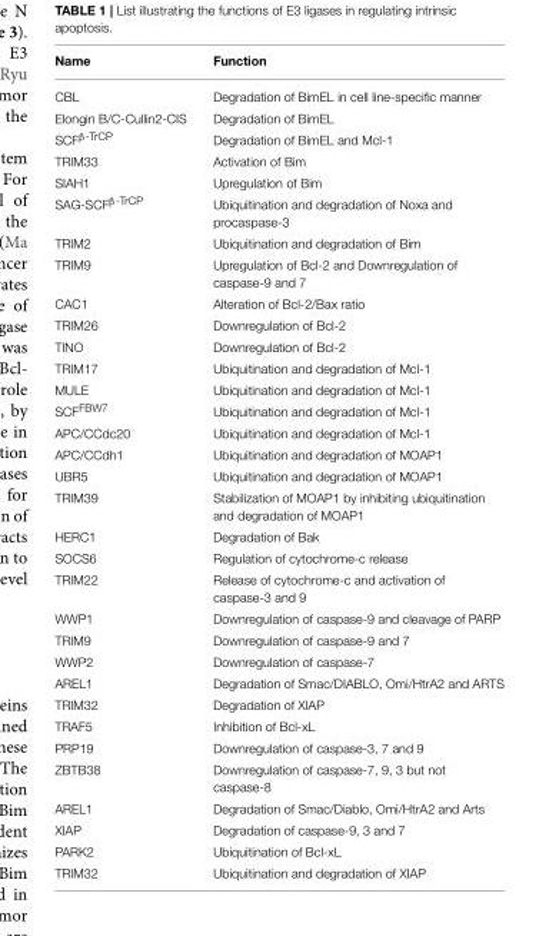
<table><thead><tr><td>Name</td><td>Function</td></tr></thead><tbody><tr><td>CBL</td><td>Degradation of BimEL in cell line-specific manner</td></tr><tr><td>Elongin B/C-Cullin2-CIS</td><td>Degradation of BimEL</td></tr><tr><td>SCF<sup>β-TrCP</sup></td><td>Degradation of BimEL and Mcl-1</td></tr><tr><td>TRIM33</td><td>Activation of Bim</td></tr><tr><td>SIAH1</td><td>Upregulation of Bim</td></tr><tr><td>SAG-SCF<sup>β-TrCP</sup></td><td>Ubiquitination and degradation of Noxa and procaspase-3</td></tr><tr><td>TRIM2</td><td>Ubiquitination and degradation of Bim</td></tr><tr><td>TRIM9</td><td>Upregulation of Bcl-2 and Downregulation of caspase-9 and 7</td></tr><tr><td>CAC1</td><td>Alteration of Bcl-2/Bax ratio</td></tr><tr><td>TRIM26</td><td>Downregulation of Bcl-2</td></tr><tr><td>TINO</td><td>Downregulation of Bcl-2</td></tr><tr><td>TRIM17</td><td>Ubiquitination and degradation of Mcl-1</td></tr><tr><td>MULE</td><td>Ubiquitination and degradation of Mcl-1</td></tr><tr><td>SCF<sup>FBW7</sup></td><td>Ubiquitination and degradation of Mcl-1</td></tr><tr><td>APC/CCdc20</td><td>Ubiquitination and degradation of Mcl-1</td></tr><tr><td>APC/CCdh1</td><td>Ubiquitination and degradation of MOAP1</td></tr><tr><td>UBR5</td><td>Ubiquitination and degradation of MOAP1</td></tr><tr><td>TRIM39</td><td>Stabilization of MOAP1 by inhibiting ubiquitination and degradation of MOAP1</td></tr><tr><td>HERC1</td><td>Degradation of Bak</td></tr><tr><td>SOCS6</td><td>Regulation of cytochrome-c release</td></tr><tr><td>TRIM22</td><td>Release of cytochrome-c and activation of caspase-3 and 9</td></tr><tr><td>WWP1</td><td>Downregulation of caspase-9 and cleavage of PARP</td></tr><tr><td>TRIM9</td><td>Downregulation of caspase-9 and 7</td></tr><tr><td>WWP2</td><td>Downregulation of caspase-7</td></tr><tr><td>AREL1</td><td>Degradation of Smac/DIABLO, Omi/HtrA2 and ARTS</td></tr><tr><td>TRIM32</td><td>Degradation of XIAP</td></tr><tr><td>TRAF5</td><td>Inhibition of Bcl-xL</td></tr><tr><td>PRP19</td><td>Downregulation of caspase-3, 7 and 9</td></tr><tr><td>ZBTB38</td><td>Downregulation of caspase-7, 9, 3 but not caspase-8</td></tr><tr><td>AREL1</td><td>Degradation of Smac/Diablo, Omi/HtrA2 and Arts</td></tr><tr><td>XIAP</td><td>Degradation of caspase-9, 3 and 7</td></tr><tr><td>PARK2</td><td>Ubiquitination of Bcl-xL</td></tr><tr><td>TRIM32</td><td>Ubiquitination and degradation of XIAP</td></tr></tbody></table>